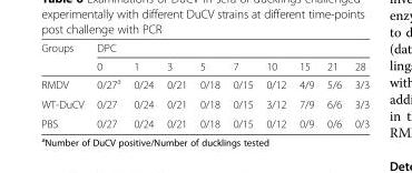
<table><thead><tr><td rowspan="2">Groups</td><td colspan="9">DPC</td></tr><tr><td>0</td><td>1</td><td>3</td><td>5</td><td>7</td><td>10</td><td>15</td><td>21</td><td>28</td></tr></thead><tbody><tr><td>RMDV</td><td>0/27<sup>a</sup></td><td>0/24</td><td>0/21</td><td>0/18</td><td>0/15</td><td>0/12</td><td>4/9</td><td>5/6</td><td>3/3</td></tr><tr><td>WT-DuCV</td><td>0/27</td><td>0/24</td><td>0/21</td><td>0/18</td><td>0/15</td><td>3/12</td><td>7/9</td><td>6/6</td><td>3/3</td></tr><tr><td>PBS</td><td>0/27</td><td>0/24</td><td>0/21</td><td>0/18</td><td>0/15</td><td>0/12</td><td>0/9</td><td>0/6</td><td>0/3</td></tr></tbody></table>